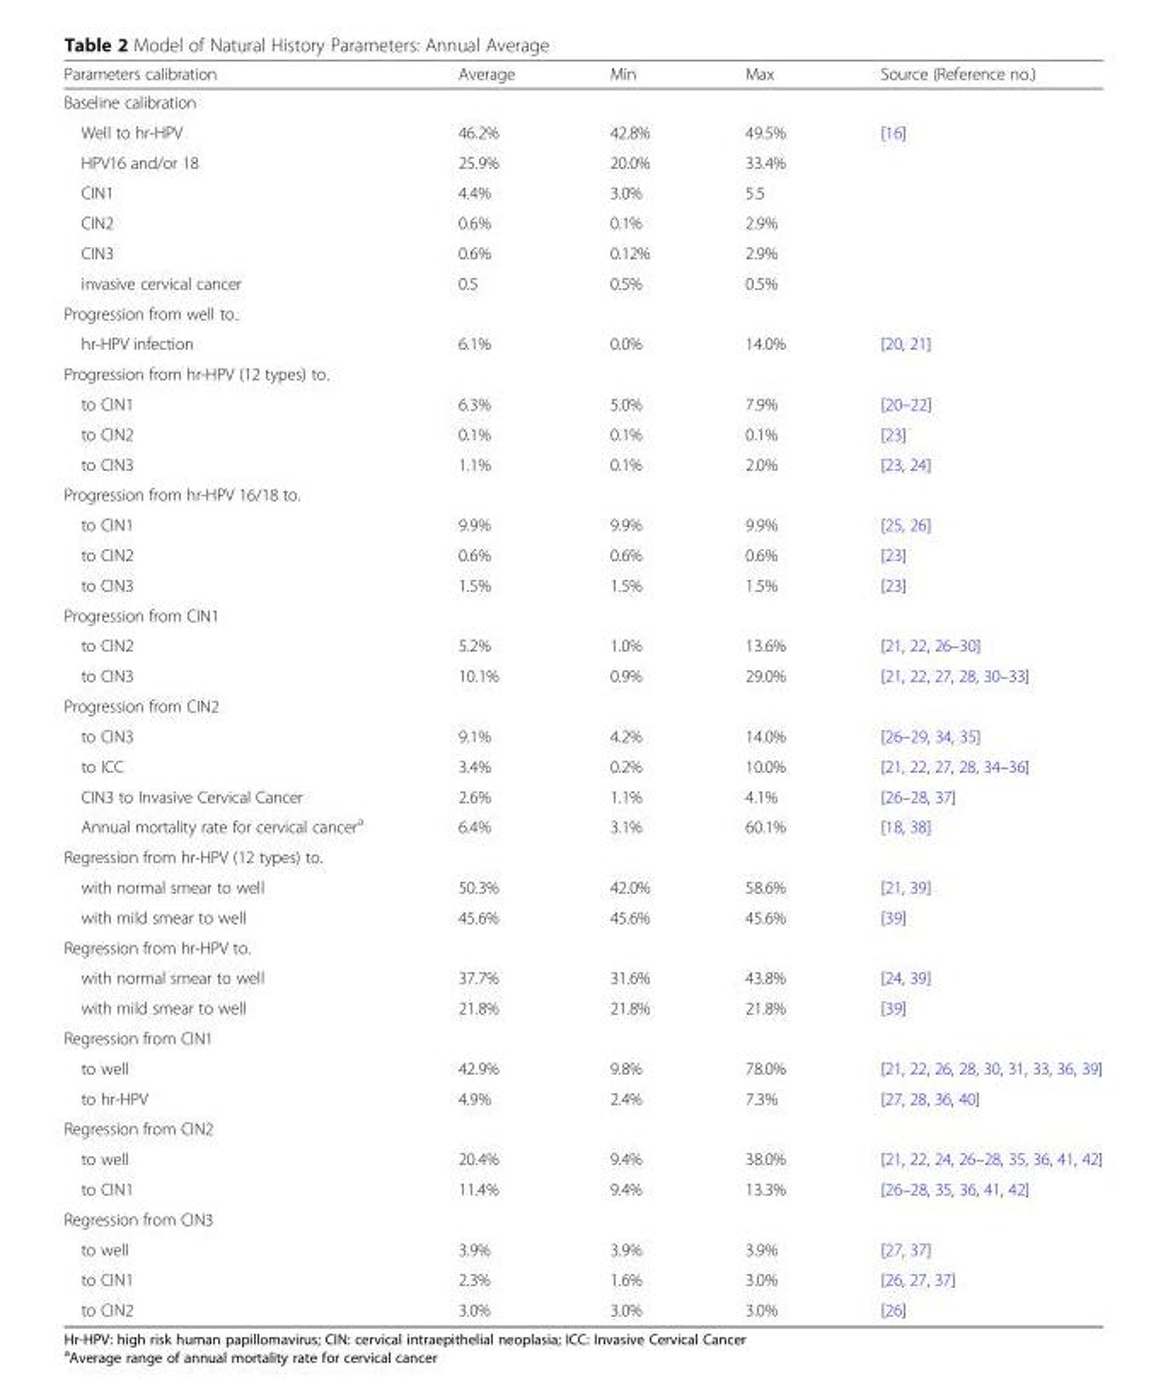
<table><thead><tr><td>Parameters calibration</td><td>Average</td><td>Min</td><td>Max</td><td>Source (Reference no.)</td></tr></thead><tbody><tr><td colspan="5">Baseline calibration</td></tr><tr><td>Well to hr-HPV</td><td>46.2%</td><td>42.8%</td><td>49.5%</td><td rowspan="6">[16]</td></tr><tr><td>HPV16 and/or 18</td><td>25.9%</td><td>20.0%</td><td>33.4%</td></tr><tr><td>CIN1</td><td>4.4%</td><td>3.0%</td><td>5.5</td></tr><tr><td>CIN2</td><td>0.6%</td><td>0.1%</td><td>2.9%</td></tr><tr><td>CIN3</td><td>0.6%</td><td>0.12%</td><td>2.9%</td></tr><tr><td>invasive cervical cancer</td><td>0.5</td><td>0.5%</td><td>0.5%</td></tr><tr><td colspan="5">Progression from well to..</td></tr><tr><td>hr-HPV infection</td><td>6.1%</td><td>0.0%</td><td>14.0%</td><td>[20, 21]</td></tr><tr><td colspan="5">Progression from hr-HPV (12 types) to.</td></tr><tr><td>to CIN1</td><td>6.3%</td><td>5.0%</td><td>7.9%</td><td>[20–22]</td></tr><tr><td>to CIN2</td><td>0.1%</td><td>0.1%</td><td>0.1%</td><td>[23]</td></tr><tr><td>to CIN3</td><td>1.1%</td><td>0.1%</td><td>2.0%</td><td>[23, 24]</td></tr><tr><td colspan="5">Progression from hr-HPV 16/18 to.</td></tr><tr><td>to CIN1</td><td>9.9%</td><td>9.9%</td><td>9.9%</td><td>[25, 26]</td></tr><tr><td>to CIN2</td><td>0.6%</td><td>0.6%</td><td>0.6%</td><td>[23]</td></tr><tr><td>to CIN3</td><td>1.5%</td><td>1.5%</td><td>1.5%</td><td>[23]</td></tr><tr><td colspan="5">Progression from CIN1</td></tr><tr><td>to CIN2</td><td>5.2%</td><td>1.0%</td><td>13.6%</td><td>[21, 22, 26–30]</td></tr><tr><td>to CIN3</td><td>10.1%</td><td>0.9%</td><td>29.0%</td><td>[21, 22, 27, 28, 30–33]</td></tr><tr><td colspan="5">Progression from CIN2</td></tr><tr><td>to CIN3</td><td>9.1%</td><td>4.2%</td><td>14.0%</td><td>[26–29, 34, 35]</td></tr><tr><td>to ICC</td><td>3.4%</td><td>0.2%</td><td>10.0%</td><td>[21, 22, 27, 28, 34–36]</td></tr><tr><td>CIN3 to Invasive Cervical Cancer</td><td>2.6%</td><td>1.1%</td><td>4.1%</td><td>[26–28, 37]</td></tr><tr><td>Annual mortality rate for cervical cancer<sup>a</sup></td><td>6.4%</td><td>3.1%</td><td>60.1%</td><td>[18, 38]</td></tr><tr><td colspan="5">Regression from hr-HPV (12 types) to.</td></tr><tr><td>with normal smear to well</td><td>50.3%</td><td>42.0%</td><td>58.6%</td><td>[21, 39]</td></tr><tr><td>with mild smear to well</td><td>45.6%</td><td>45.6%</td><td>45.6%</td><td>[39]</td></tr><tr><td colspan="5">Regression from hr-HPV to.</td></tr><tr><td>with normal smear to well</td><td>37.7%</td><td>31.6%</td><td>43.8%</td><td>[24, 39]</td></tr><tr><td>with mild smear to well</td><td>21.8%</td><td>21.8%</td><td>21.8%</td><td>[39]</td></tr><tr><td colspan="5">Regression from CIN1</td></tr><tr><td>to well</td><td>42.9%</td><td>9.8%</td><td>78.0%</td><td>[21, 22, 26, 28, 30, 31, 33, 36, 39]</td></tr><tr><td>to hr-HPV</td><td>4.9%</td><td>2.4%</td><td>7.3%</td><td>[27, 28, 36, 40]</td></tr><tr><td colspan="5">Regression from CIN2</td></tr><tr><td>to well</td><td>20.4%</td><td>9.4%</td><td>38.0%</td><td>[21, 22, 24, 26–28, 35, 36, 41, 42]</td></tr><tr><td>to CIN1</td><td>11.4%</td><td>9.4%</td><td>13.3%</td><td>[26–28, 35, 36, 41, 42]</td></tr><tr><td colspan="5">Regression from CIN3</td></tr><tr><td>to well</td><td>3.9%</td><td>3.9%</td><td>3.9%</td><td>[27, 37]</td></tr><tr><td>to CIN1</td><td>2.3%</td><td>1.6%</td><td>3.0%</td><td>[26, 27, 37]</td></tr><tr><td>to CIN2</td><td>3.0%</td><td>3.0%</td><td>3.0%</td><td>[26]</td></tr></tbody></table>